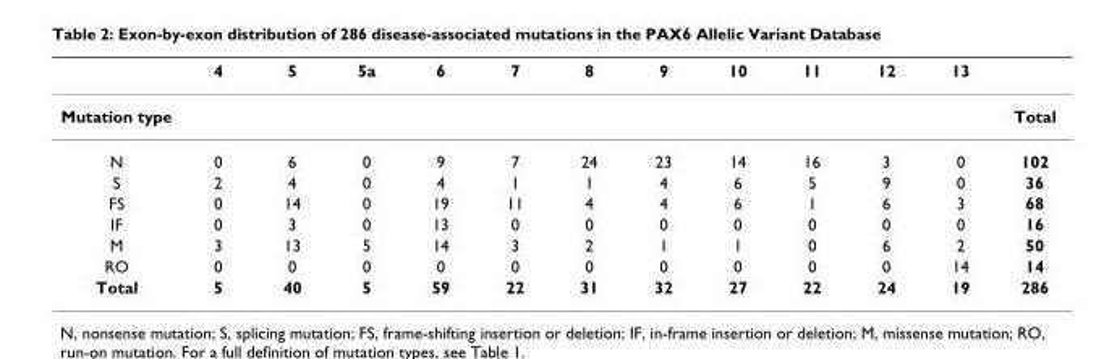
<table><thead><tr><td></td><td>4</td><td>5</td><td>5a</td><td>6</td><td>7</td><td>8</td><td>9</td><td>10</td><td>11</td><td>12</td><td>13</td><td></td></tr></thead><tbody><tr><td>Mutation type</td><td></td><td></td><td></td><td></td><td></td><td></td><td></td><td></td><td></td><td></td><td></td><td>Total</td></tr><tr><td>N</td><td>0</td><td>6</td><td>0</td><td>9</td><td>7</td><td>24</td><td>23</td><td>14</td><td>16</td><td>3</td><td>0</td><td>102</td></tr><tr><td>S</td><td>2</td><td>4</td><td>0</td><td>4</td><td>1</td><td>1</td><td>4</td><td>6</td><td>5</td><td>9</td><td>0</td><td>36</td></tr><tr><td>FS</td><td>0</td><td>14</td><td>0</td><td>19</td><td>11</td><td>4</td><td>4</td><td>6</td><td>1</td><td>6</td><td>3</td><td>68</td></tr><tr><td>IF</td><td>0</td><td>3</td><td>0</td><td>13</td><td>0</td><td>0</td><td>0</td><td>0</td><td>0</td><td>0</td><td>0</td><td>16</td></tr><tr><td>M</td><td>3</td><td>13</td><td>5</td><td>14</td><td>3</td><td>2</td><td>1</td><td>1</td><td>0</td><td>6</td><td>2</td><td>50</td></tr><tr><td>RO</td><td>0</td><td>0</td><td>0</td><td>0</td><td>0</td><td>0</td><td>0</td><td>0</td><td>0</td><td>0</td><td>14</td><td>14</td></tr><tr><td>Total</td><td>5</td><td>40</td><td>5</td><td>59</td><td>22</td><td>31</td><td>32</td><td>27</td><td>22</td><td>24</td><td>19</td><td>286</td></tr></tbody></table>